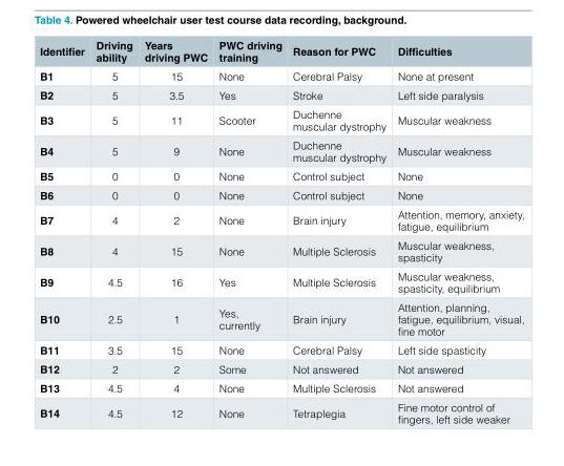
<table><thead><tr><td>Identifier</td><td>Driving ability</td><td>Years driving PWC</td><td>PWC driving training</td><td>Reason for PWC</td><td>Difficulties</td></tr></thead><tbody><tr><td>B1</td><td>5</td><td>15</td><td>None</td><td>Cerebral Palsy</td><td>None at present</td></tr><tr><td>B2</td><td>5</td><td>3.5</td><td>Yes</td><td>Stroke</td><td>Left side paralysis</td></tr><tr><td>B3</td><td>5</td><td>11</td><td>Scooter</td><td>Duchenne muscular dystrophy</td><td>Muscular weakness</td></tr><tr><td>B4</td><td>5</td><td>9</td><td>None</td><td>Duchenne muscular dystrophy</td><td>Muscular weakness</td></tr><tr><td>B5</td><td>0</td><td>0</td><td>None</td><td>Control subject</td><td>None</td></tr><tr><td>B6</td><td>0</td><td>0</td><td>None</td><td>Control subject</td><td>None</td></tr><tr><td>B7</td><td>4</td><td>2</td><td>None</td><td>Brain injury</td><td>Attention, memory, anxiety, fatigue, equilibrium</td></tr><tr><td>B8</td><td>4</td><td>15</td><td>None</td><td>Multiple Sclerosis</td><td>Muscular weakness, spasticity</td></tr><tr><td>B9</td><td>4.5</td><td>16</td><td>Yes</td><td>Multiple Sclerosis</td><td>Muscular weakness, spasticity, equilibrium</td></tr><tr><td>B10</td><td>2.5</td><td>1</td><td>Yes, currently</td><td>Brain injury</td><td>Attention, planning, fatigue, equilibrium, visual, fine motor</td></tr><tr><td>B11</td><td>3.5</td><td>15</td><td>None</td><td>Cerebral Palsy</td><td>Left side spasticity</td></tr><tr><td>B12</td><td>2</td><td>2</td><td>Some</td><td>Not answered</td><td>Not answered</td></tr><tr><td>B13</td><td>4.5</td><td>4</td><td>None</td><td>Multiple Sclerosis</td><td>Not answered</td></tr><tr><td>B14</td><td>4.5</td><td>12</td><td>None</td><td>Tetraplegia</td><td>Fine motor control of fingers, left side weaker</td></tr></tbody></table>